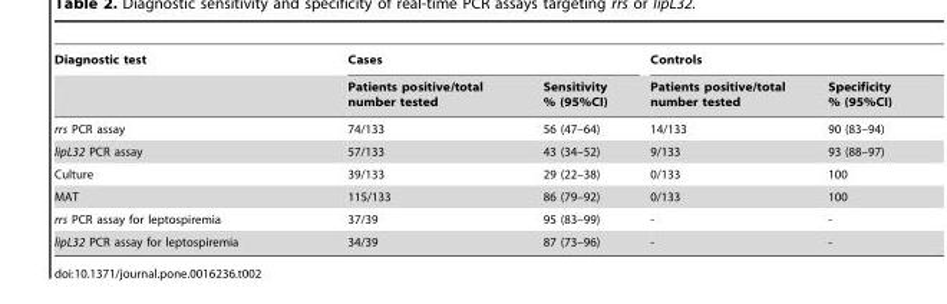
<table><thead><tr><td rowspan="2">Diagnostic test</td><td colspan="2">Cases</td><td colspan="2">Controls</td></tr><tr><td>Patients positive/total number tested</td><td>Sensitivity % (95%CI)</td><td>Patients positive/total number tested</td><td>Specificity % (95%CI)</td></tr></thead><tbody><tr><td>rrs PCR assay</td><td>74/133</td><td>56 (47–64)</td><td>14/133</td><td>90 (83–94)</td></tr><tr><td>lipL32 PCR assay</td><td>57/133</td><td>43 (34–52)</td><td>9/133</td><td>93 (88–97)</td></tr><tr><td>Culture</td><td>39/133</td><td>29 (22–38)</td><td>0/133</td><td>100</td></tr><tr><td>MAT</td><td>115/133</td><td>86 (79–92)</td><td>0/133</td><td>100</td></tr><tr><td>rrs PCR assay for leptospiremia</td><td>37/39</td><td>95 (83–99)</td><td>-</td><td>-</td></tr><tr><td>lipL32 PCR assay for leptospiremia</td><td>34/39</td><td>87 (73–96)</td><td>-</td><td>-</td></tr></tbody></table>